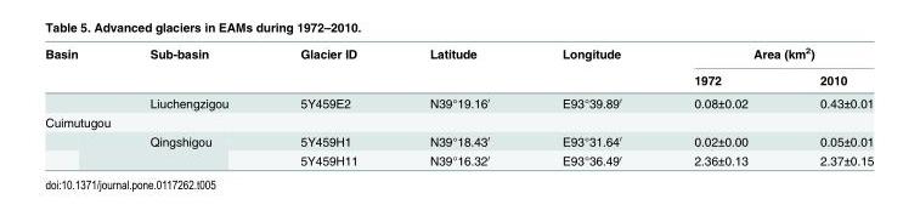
<table><thead><tr><td rowspan="2">Basin</td><td rowspan="2">Sub-basin</td><td rowspan="2">Glacier ID</td><td rowspan="2">Latitude</td><td rowspan="2">Longitude</td><td colspan="2">Area (km<sup>2</sup>)</td></tr><tr><td>1972</td><td>2010</td></tr></thead><tbody><tr><td></td><td>Liuchengzigou</td><td>5Y459E2</td><td>N39°19.16′</td><td>E93°39.89′</td><td>0.08±0.02</td><td>0.43±0.01</td></tr><tr><td colspan="7">Cuimutugou</td></tr><tr><td></td><td rowspan="2">Qingshigou</td><td>5Y459H1</td><td>N39°18.43′</td><td>E93°31.64′</td><td>0.02±0.00</td><td>0.05±0.01</td></tr><tr><td></td><td>5Y459H11</td><td>N39°16.32′</td><td>E93°36.49′</td><td>2.36±0.13</td><td>2.37±0.15</td></tr></tbody></table>